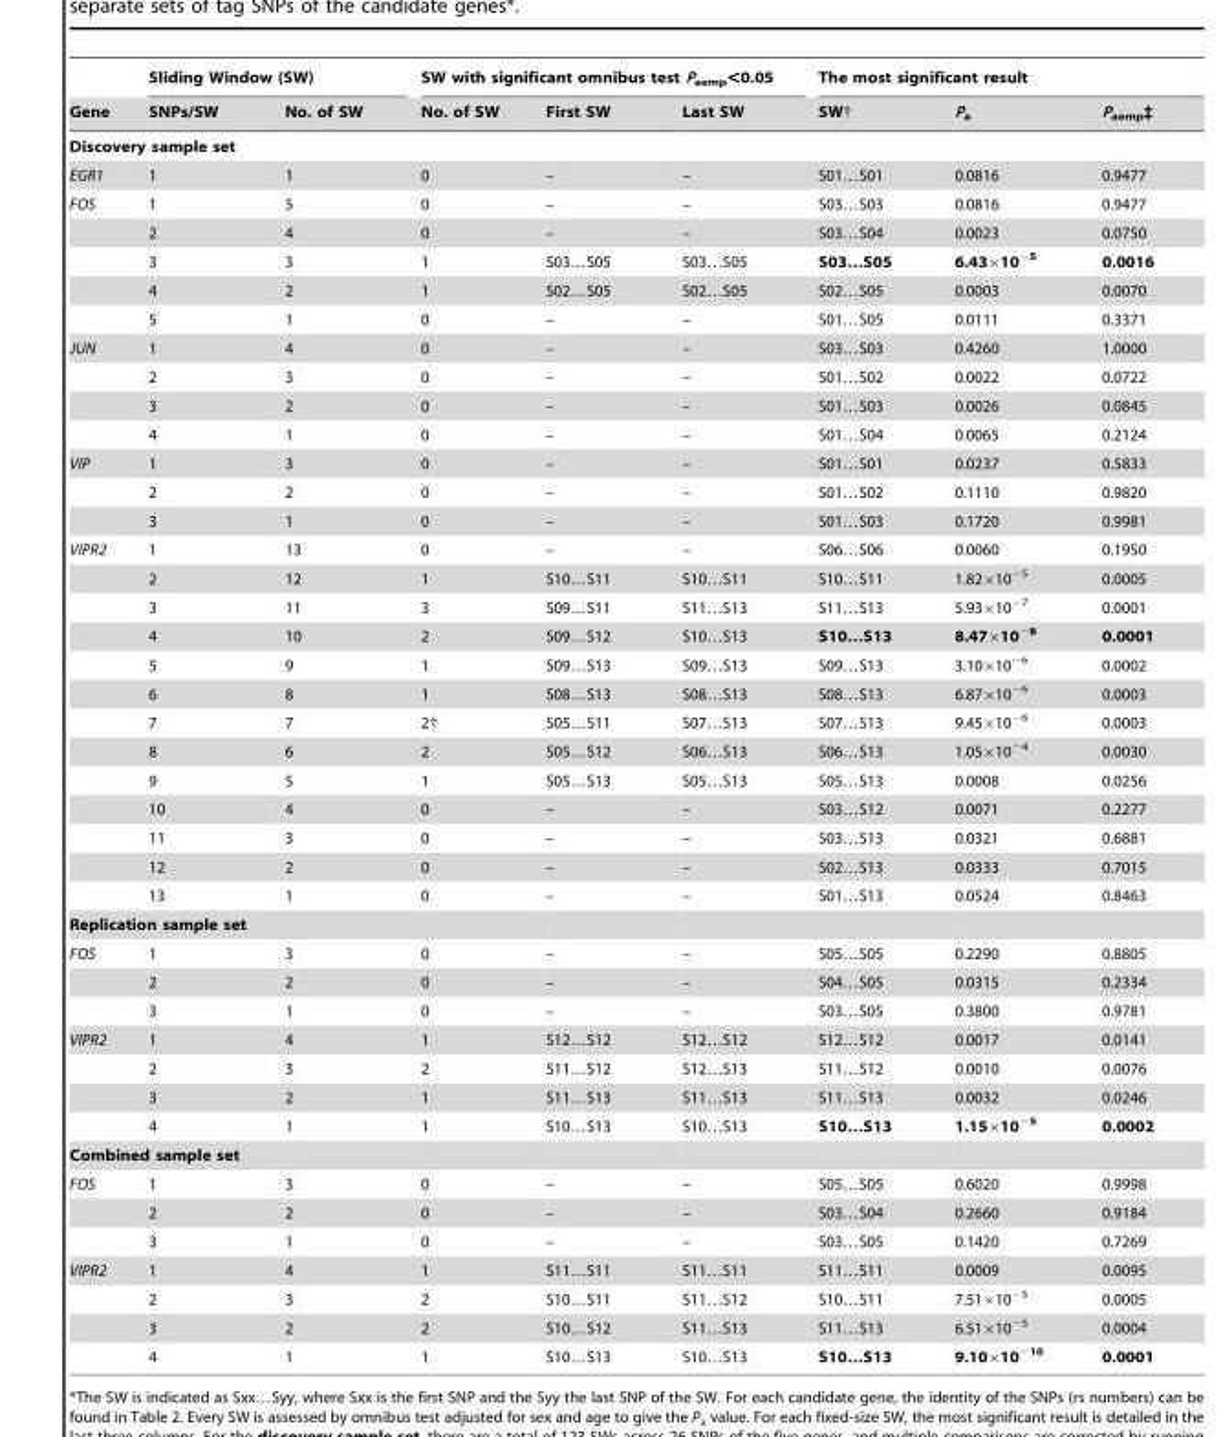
<table><thead><tr><td rowspan="2">Gene</td><td colspan="2">Sliding Window (SW)</td><td colspan="3">SW with significant omnibus test P<sub>aemp</sub>&lt;0.05</td><td colspan="3">The most significant result</td></tr><tr><td>SNPs/SW</td><td>No. of SW</td><td>No. of SW</td><td>First SW</td><td>Last SW</td><td>SW†</td><td>P<sub>a</sub></td><td>P<sub>aemp</sub>‡</td></tr></thead><tbody><tr><td colspan="9">Discovery sample set</td></tr><tr><td>EGR1</td><td>1</td><td>1</td><td>0</td><td>–</td><td>–</td><td>S01…S01</td><td>0.0816</td><td>0.9477</td></tr><tr><td rowspan="5">FOS</td><td>1</td><td>5</td><td>0</td><td>–</td><td>–</td><td>S03…S03</td><td>0.0816</td><td>0.9477</td></tr><tr><td>2</td><td>4</td><td>0</td><td>–</td><td>–</td><td>S03…S04</td><td>0.0023</td><td>0.0750</td></tr><tr><td>3</td><td>3</td><td>1</td><td>S03…S05</td><td>S03…S05</td><td>S03…S05</td><td>6.43×10<sup>−5</sup></td><td>0.0016</td></tr><tr><td>4</td><td>2</td><td>1</td><td>S02…S05</td><td>S02…S05</td><td>S02…S05</td><td>0.0003</td><td>0.0070</td></tr><tr><td>5</td><td>1</td><td>0</td><td>–</td><td>–</td><td>S01…S05</td><td>0.0111</td><td>0.3371</td></tr><tr><td rowspan="4">JUN</td><td>1</td><td>4</td><td>0</td><td>–</td><td>–</td><td>S03…S03</td><td>0.4260</td><td>1.0000</td></tr><tr><td>2</td><td>3</td><td>0</td><td>–</td><td>–</td><td>S01…S02</td><td>0.0022</td><td>0.0722</td></tr><tr><td>3</td><td>2</td><td>0</td><td>–</td><td>–</td><td>S01…S03</td><td>0.0026</td><td>0.0845</td></tr><tr><td>4</td><td>1</td><td>0</td><td>–</td><td>–</td><td>S01…S04</td><td>0.0065</td><td>0.2124</td></tr><tr><td rowspan="3">VIP</td><td>1</td><td>3</td><td>0</td><td>–</td><td>–</td><td>S01…S01</td><td>0.0237</td><td>0.5833</td></tr><tr><td>2</td><td>2</td><td>0</td><td>–</td><td>–</td><td>S01…S02</td><td>0.1110</td><td>0.9820</td></tr><tr><td>3</td><td>1</td><td>0</td><td>–</td><td>–</td><td>S01…S03</td><td>0.1720</td><td>0.9981</td></tr><tr><td rowspan="13">VIPR2</td><td>1</td><td>13</td><td>0</td><td>–</td><td>–</td><td>S06…S06</td><td>0.0060</td><td>0.1950</td></tr><tr><td>2</td><td>12</td><td>1</td><td>S10…S11</td><td>S10…S11</td><td>S10…S11</td><td>1.82×10<sup>−5</sup></td><td>0.0005</td></tr><tr><td>3</td><td>11</td><td>3</td><td>S09…S11</td><td>S11…S13</td><td>S11…S13</td><td>5.93×10<sup>−7</sup></td><td>0.0001</td></tr><tr><td>4</td><td>10</td><td>2</td><td>S09…S12</td><td>S10…S13</td><td>S10…S13</td><td>8.47×10<sup>−8</sup></td><td>0.0001</td></tr><tr><td>5</td><td>9</td><td>1</td><td>S09…S13</td><td>S09…S13</td><td>S09…S13</td><td>3.10×10<sup>−6</sup></td><td>0.0002</td></tr><tr><td>6</td><td>8</td><td>1</td><td>S08…S13</td><td>S08…S13</td><td>S08…S13</td><td>6.87×10<sup>−6</sup></td><td>0.0003</td></tr><tr><td>7</td><td>7</td><td>2†</td><td>S05…S11</td><td>S07…S13</td><td>S07…S13</td><td>9.45×10<sup>−6</sup></td><td>0.0003</td></tr><tr><td>8</td><td>6</td><td>2</td><td>S05…S12</td><td>S06…S13</td><td>S06…S13</td><td>1.05×10<sup>−4</sup></td><td>0.0030</td></tr><tr><td>9</td><td>5</td><td>1</td><td>S05…S13</td><td>S05…S13</td><td>S05…S13</td><td>0.0008</td><td>0.0256</td></tr><tr><td>10</td><td>4</td><td>0</td><td>–</td><td>–</td><td>S03…S12</td><td>0.0071</td><td>0.2277</td></tr><tr><td>11</td><td>3</td><td>0</td><td>–</td><td>–</td><td>S03…S13</td><td>0.0321</td><td>0.6881</td></tr><tr><td>12</td><td>2</td><td>0</td><td>–</td><td>–</td><td>S02…S13</td><td>0.0333</td><td>0.7015</td></tr><tr><td>13</td><td>1</td><td>0</td><td>–</td><td>–</td><td>S01…S13</td><td>0.0524</td><td>0.8463</td></tr><tr><td colspan="9">Replication sample set</td></tr><tr><td rowspan="3">FOS</td><td>1</td><td>3</td><td>0</td><td>–</td><td>–</td><td>S05…S05</td><td>0.2290</td><td>0.8805</td></tr><tr><td>2</td><td>2</td><td>0</td><td>–</td><td>–</td><td>S04…S05</td><td>0.0315</td><td>0.2334</td></tr><tr><td>3</td><td>1</td><td>0</td><td>–</td><td>–</td><td>S03…S05</td><td>0.3800</td><td>0.9781</td></tr><tr><td rowspan="4">VIPR2</td><td>1</td><td>4</td><td>1</td><td>S12…S12</td><td>S12…S12</td><td>S12…S12</td><td>0.0017</td><td>0.0141</td></tr><tr><td>2</td><td>3</td><td>2</td><td>S11…S12</td><td>S12…S13</td><td>S11…S12</td><td>0.0010</td><td>0.0076</td></tr><tr><td>3</td><td>2</td><td>1</td><td>S11…S13</td><td>S11…S13</td><td>S11…S13</td><td>0.0032</td><td>0.0246</td></tr><tr><td>4</td><td>1</td><td>1</td><td>S10…S13</td><td>S10…S13</td><td>S10…S13</td><td>1.15×10<sup>−5</sup></td><td>0.0002</td></tr><tr><td colspan="9">Combined sample set</td></tr><tr><td rowspan="3">FOS</td><td>1</td><td>3</td><td>0</td><td>–</td><td>–</td><td>S05…S05</td><td>0.6020</td><td>0.9998</td></tr><tr><td>2</td><td>2</td><td>0</td><td>–</td><td>–</td><td>S03…S04</td><td>0.2660</td><td>0.9184</td></tr><tr><td>3</td><td>1</td><td>0</td><td>–</td><td>–</td><td>S03…S05</td><td>0.1420</td><td>0.7269</td></tr><tr><td rowspan="4">VIPR2</td><td>1</td><td>4</td><td>1</td><td>S11…S11</td><td>S11…S11</td><td>S11…S11</td><td>0.0009</td><td>0.0095</td></tr><tr><td>2</td><td>3</td><td>2</td><td>S10…S11</td><td>S11…S12</td><td>S10…S11</td><td>7.51×10<sup>−5</sup></td><td>0.0005</td></tr><tr><td>3</td><td>2</td><td>2</td><td>S10…S12</td><td>S11…S13</td><td>S11…S13</td><td>6.51×10<sup>−5</sup></td><td>0.0004</td></tr><tr><td>4</td><td>1</td><td>1</td><td>S10…S13</td><td>S10…S13</td><td>S10…S13</td><td>9.10×10<sup>−10</sup></td><td>0.0001</td></tr></tbody></table>